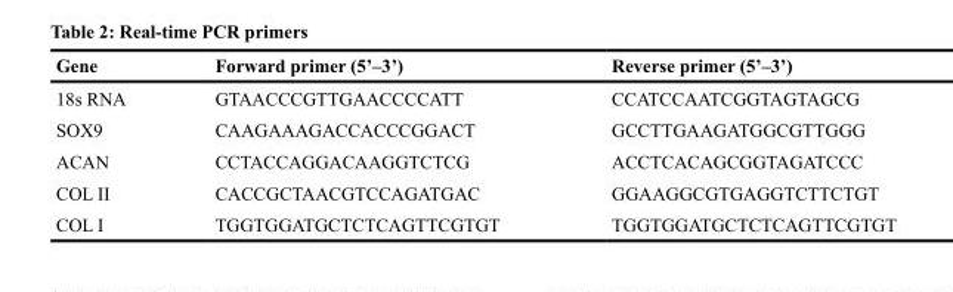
<table><thead><tr><td>Gene</td><td>Forward primer (5’–3’)</td><td>Reverse primer (5’–3’)</td></tr></thead><tbody><tr><td>18s RNA</td><td>GTAACCCGTTGAACCCCATT</td><td>CCATCCAATCGGTAGTAGCG</td></tr><tr><td>SOX9</td><td>CAAGAAAGACCACCCGGACT</td><td>GCCTTGAAGATGGCGTTGGG</td></tr><tr><td>ACAN</td><td>CCTACCAGGACAAGGTCTCG</td><td>ACCTCACAGCGGTAGATCCC</td></tr><tr><td>COL II</td><td>CACCGCTAACGTCCAGATGAC</td><td>GGAAGGCGTGAGGTCTTCTGT</td></tr><tr><td>COL I</td><td>TGGTGGATGCTCTCAGTTCGTGT</td><td>TGGTGGATGCTCTCAGTTCGTGT</td></tr></tbody></table>